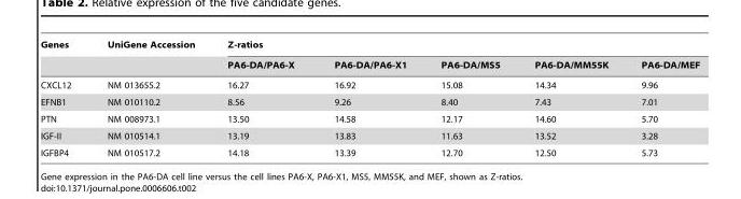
<table><thead><tr><td rowspan="2">Genes</td><td rowspan="2">UniGene Accession</td><td colspan="5">Z-ratios</td></tr><tr><td>PA6-DA/PA6-X</td><td>PA6-DA/PA6-X1</td><td>PA6-DA/MS5</td><td>PA6-DA/MM55K</td><td>PA6-DA/MEF</td></tr></thead><tbody><tr><td>CXCL12</td><td>NM 013655.2</td><td>16.27</td><td>16.92</td><td>15.08</td><td>14.34</td><td>9.96</td></tr><tr><td>EFNB1</td><td>NM 010110.2</td><td>8.56</td><td>9.26</td><td>8.40</td><td>7.43</td><td>7.01</td></tr><tr><td>PTN</td><td>NM 008973.1</td><td>13.50</td><td>14.58</td><td>12.17</td><td>14.60</td><td>5.70</td></tr><tr><td>IGF-II</td><td>NM 010514.1</td><td>13.19</td><td>13.83</td><td>11.63</td><td>13.52</td><td>3.28</td></tr><tr><td>IGFBP4</td><td>NM 010517.2</td><td>14.18</td><td>13.39</td><td>12.70</td><td>12.50</td><td>5.73</td></tr></tbody></table>